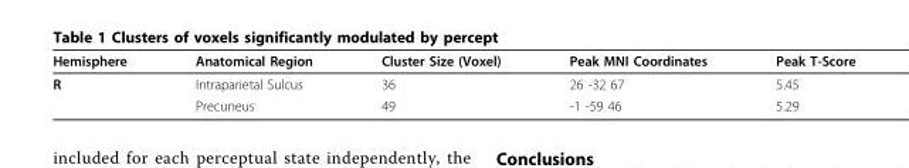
<table><thead><tr><td>Hemisphere</td><td>Anatomical Region</td><td>Cluster Size (Voxel)</td><td>Peak MNI Coordinates</td><td>Peak T-Score</td></tr></thead><tbody><tr><td rowspan="2">R</td><td>Intraparietal Sulcus</td><td>36</td><td>26 -32 67</td><td>5.45</td></tr><tr><td>Precuneus</td><td>49</td><td>-1 -59 46</td><td>5.29</td></tr></tbody></table>